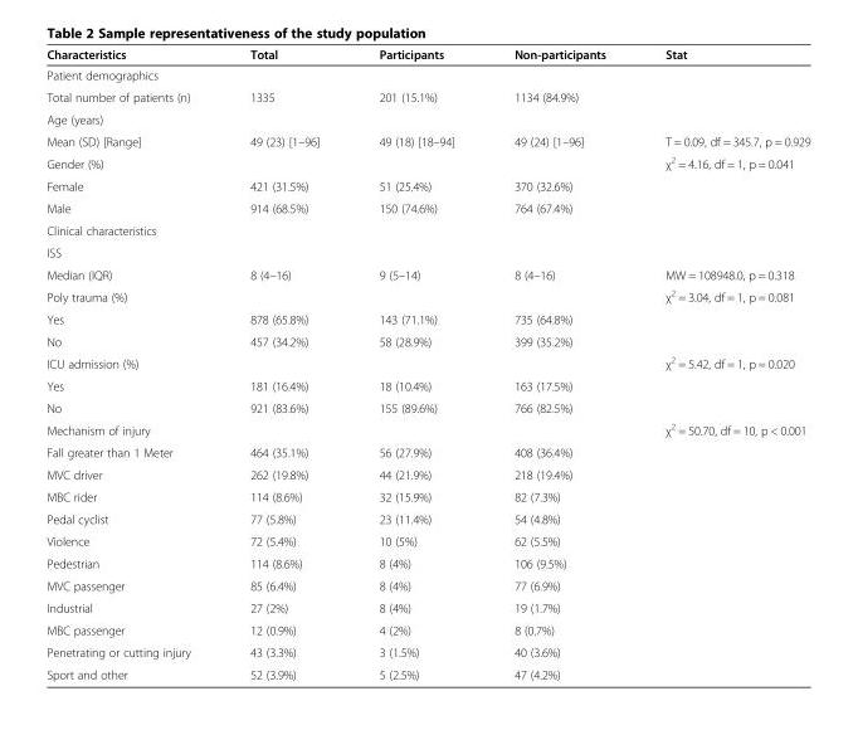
<table><thead><tr><td>Characteristics</td><td>Total</td><td>Participants</td><td>Non-participants</td><td>Stat</td></tr></thead><tbody><tr><td colspan="5">Patient demographics</td></tr><tr><td>Total number of patients (n)</td><td>1335</td><td>201 (15.1%)</td><td>1134 (84.9%)</td><td></td></tr><tr><td colspan="5">Age (years)</td></tr><tr><td>Mean (SD) [Range]</td><td>49 (23) [1–96]</td><td>49 (18) [18–94]</td><td>49 (24) [1–96]</td><td>T = 0.09, df = 345.7, p = 0.929</td></tr><tr><td>Gender (%)</td><td></td><td></td><td></td><td>χ<sup>2</sup> = 4.16, df = 1, p = 0.041</td></tr><tr><td>Female</td><td>421 (31.5%)</td><td>51 (25.4%)</td><td>370 (32.6%)</td><td></td></tr><tr><td>Male</td><td>914 (68.5%)</td><td>150 (74.6%)</td><td>764 (67.4%)</td><td></td></tr><tr><td colspan="5">Clinical characteristics</td></tr><tr><td colspan="5">ISS</td></tr><tr><td>Median (IQR)</td><td>8 (4–16)</td><td>9 (5–14)</td><td>8 (4–16)</td><td>MW = 108948.0, p = 0.318</td></tr><tr><td>Poly trauma (%)</td><td></td><td></td><td></td><td>χ<sup>2</sup> = 3.04, df = 1, p = 0.081</td></tr><tr><td>Yes</td><td>878 (65.8%)</td><td>143 (71.1%)</td><td>735 (64.8%)</td><td></td></tr><tr><td>No</td><td>457 (34.2%)</td><td>58 (28.9%)</td><td>399 (35.2%)</td><td></td></tr><tr><td>ICU admission (%)</td><td></td><td></td><td></td><td>χ<sup>2</sup> = 5.42, df = 1, p = 0.020</td></tr><tr><td>Yes</td><td>181 (16.4%)</td><td>18 (10.4%)</td><td>163 (17.5%)</td><td></td></tr><tr><td>No</td><td>921 (83.6%)</td><td>155 (89.6%)</td><td>766 (82.5%)</td><td></td></tr><tr><td>Mechanism of injury</td><td></td><td></td><td></td><td>χ<sup>2</sup> = 50.70, df = 10, p &lt; 0.001</td></tr><tr><td>Fall greater than 1 Meter</td><td>464 (35.1%)</td><td>56 (27.9%)</td><td>408 (36.4%)</td><td></td></tr><tr><td>MVC driver</td><td>262 (19.8%)</td><td>44 (21.9%)</td><td>218 (19.4%)</td><td></td></tr><tr><td>MBC rider</td><td>114 (8.6%)</td><td>32 (15.9%)</td><td>82 (7.3%)</td><td></td></tr><tr><td>Pedal cyclist</td><td>77 (5.8%)</td><td>23 (11.4%)</td><td>54 (4.8%)</td><td></td></tr><tr><td>Violence</td><td>72 (5.4%)</td><td>10 (5%)</td><td>62 (5.5%)</td><td></td></tr><tr><td>Pedestrian</td><td>114 (8.6%)</td><td>8 (4%)</td><td>106 (9.5%)</td><td></td></tr><tr><td>MVC passenger</td><td>85 (6.4%)</td><td>8 (4%)</td><td>77 (6.9%)</td><td></td></tr><tr><td>Industrial</td><td>27 (2%)</td><td>8 (4%)</td><td>19 (1.7%)</td><td></td></tr><tr><td>MBC passenger</td><td>12 (0.9%)</td><td>4 (2%)</td><td>8 (0.7%)</td><td></td></tr><tr><td>Penetrating or cutting injury</td><td>43 (3.3%)</td><td>3 (1.5%)</td><td>40 (3.6%)</td><td></td></tr><tr><td>Sport and other</td><td>52 (3.9%)</td><td>5 (2.5%)</td><td>47 (4.2%)</td><td></td></tr></tbody></table>